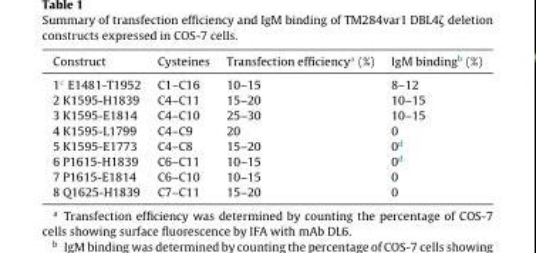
<table><thead><tr><td>Construct</td><td>Cysteines</td><td>Transfection efficiency<sup>a</sup> (%)</td><td>IgM binding<sup>b</sup> (%)</td></tr></thead><tbody><tr><td>1<sup>c</sup> E1481-T1952</td><td>C1–C16</td><td>10–15</td><td>8–12</td></tr><tr><td>2 K1595-H1839</td><td>C4–C11</td><td>15–20</td><td>10–15</td></tr><tr><td>3 K1595-E1814</td><td>C4–C10</td><td>25–30</td><td>10–15</td></tr><tr><td>4 K1595-L1799</td><td>C4–C9</td><td>20</td><td>0</td></tr><tr><td>5 K1595-E1773</td><td>C4–C8</td><td>15–20</td><td>0<sup>d</sup></td></tr><tr><td>6 P1615-H1839</td><td>C6–C11</td><td>10–15</td><td>0<sup>d</sup></td></tr><tr><td>7 P1615-E1814</td><td>C6–C10</td><td>10–15</td><td>0</td></tr><tr><td>8 Q1625-H1839</td><td>C7–C11</td><td>15–20</td><td>0</td></tr></tbody></table>